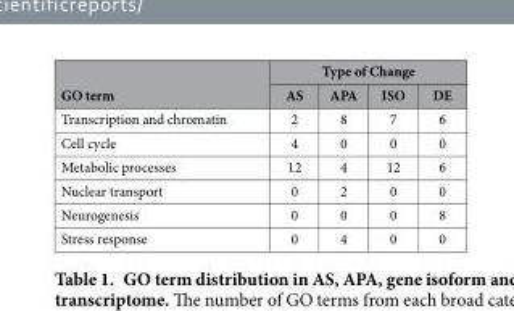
<table><thead><tr><td rowspan="2">GO term</td><td colspan="4">Type of Change</td></tr><tr><td>AS</td><td>APA</td><td>ISO</td><td>DE</td></tr></thead><tbody><tr><td>Transcription and chromatin</td><td>2</td><td>8</td><td>7</td><td>6</td></tr><tr><td>Cell cycle</td><td>4</td><td>0</td><td>0</td><td>0</td></tr><tr><td>Metabolic processes</td><td>12</td><td>4</td><td>12</td><td>6</td></tr><tr><td>Nuclear transport</td><td>0</td><td>2</td><td>0</td><td>0</td></tr><tr><td>Neurogenesis</td><td>0</td><td>0</td><td>0</td><td>8</td></tr><tr><td>Stress response</td><td>0</td><td>4</td><td>0</td><td>0</td></tr></tbody></table>